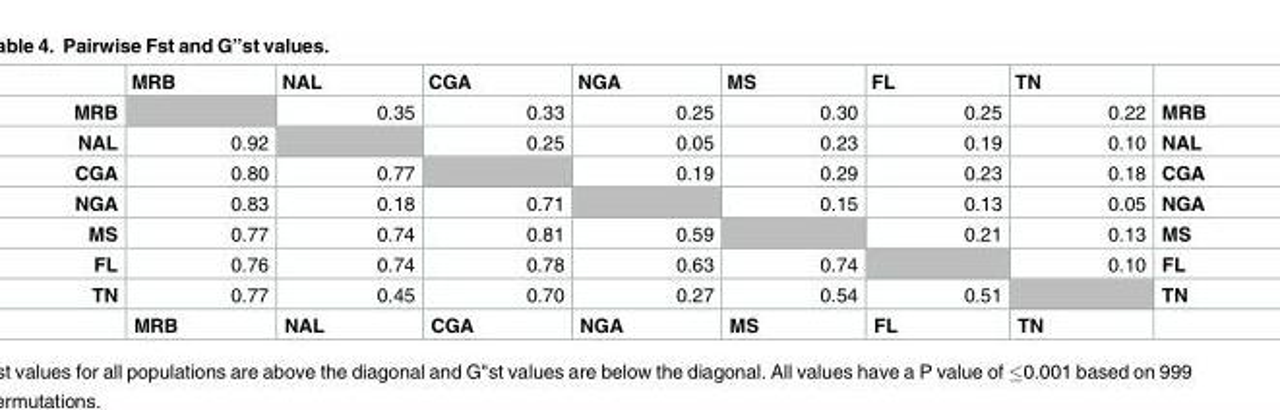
<table><thead><tr><td></td><td>MRB</td><td>NAL</td><td>CGA</td><td>NGA</td><td>MS</td><td>FL</td><td>TN</td><td></td></tr></thead><tbody><tr><td>MRB</td><td></td><td>0.35</td><td>0.33</td><td>0.25</td><td>0.30</td><td>0.25</td><td>0.22</td><td>MRB</td></tr><tr><td>NAL</td><td>0.92</td><td></td><td>0.25</td><td>0.05</td><td>0.23</td><td>0.19</td><td>0.10</td><td>NAL</td></tr><tr><td>CGA</td><td>0.80</td><td>0.77</td><td></td><td>0.19</td><td>0.29</td><td>0.23</td><td>0.18</td><td>CGA</td></tr><tr><td>NGA</td><td>0.83</td><td>0.18</td><td>0.71</td><td></td><td>0.15</td><td>0.13</td><td>0.05</td><td>NGA</td></tr><tr><td>MS</td><td>0.77</td><td>0.74</td><td>0.81</td><td>0.59</td><td></td><td>0.21</td><td>0.13</td><td>MS</td></tr><tr><td>FL</td><td>0.76</td><td>0.74</td><td>0.78</td><td>0.63</td><td>0.74</td><td></td><td>0.10</td><td>FL</td></tr><tr><td rowspan="2">TN</td><td>0.77</td><td>0.45</td><td>0.70</td><td>0.27</td><td>0.54</td><td>0.51</td><td></td><td>TN</td></tr><tr><td>MRB</td><td>NAL</td><td>CGA</td><td>NGA</td><td>MS</td><td>FL</td><td>TN</td><td></td></tr></tbody></table>